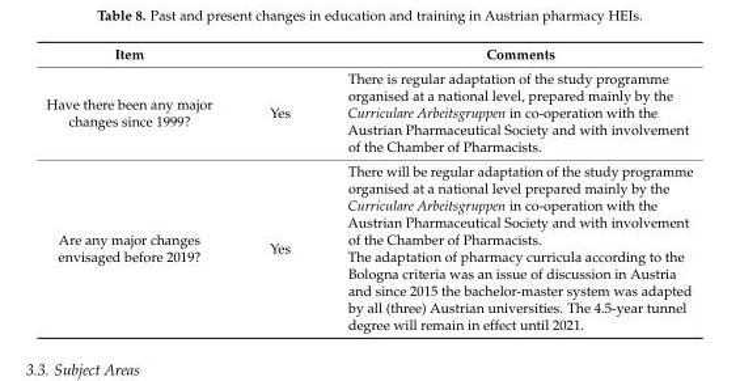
<table><thead><tr><td>Item</td><td></td><td>Comments</td></tr></thead><tbody><tr><td>Have there been any major changes since 1999?</td><td>Yes</td><td>There is regular adaptation of the study programme organised at a national level, prepared mainly by the Curriculare Arbeitsgruppen in co-operation with the Austrian Pharmaceutical Society and with involvement of the Chamber of Pharmacists.</td></tr><tr><td>Are any major changes envisaged before 2019?</td><td>Yes</td><td>There will be regular adaptation of the study programme organised at a national level prepared mainly by the Curriculare Arbeitsgruppen in co-operation with the Austrian Pharmaceutical Society and with involvement of the Chamber of Pharmacists. The adaptation of pharmacy curricula according to the Bologna criteria was an issue of discussion in Austria and since 2015 the bachelor-master system was adapted by all (three) Austrian universities. The 4.5-year tunnel degree will remain in effect until 2021.</td></tr></tbody></table>